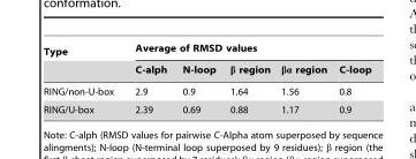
<table><thead><tr><td rowspan="2">Type</td><td colspan="5">Average of RMSD values</td></tr><tr><td>C-alph</td><td>N-loop</td><td>β region</td><td>βα region</td><td>C-loop</td></tr></thead><tbody><tr><td>RING/non-U-box</td><td>2.9</td><td>0.9</td><td>1.64</td><td>1.56</td><td>0.8</td></tr><tr><td>RING/U-box</td><td>2.39</td><td>0.69</td><td>0.88</td><td>1.17</td><td>0.9</td></tr></tbody></table>